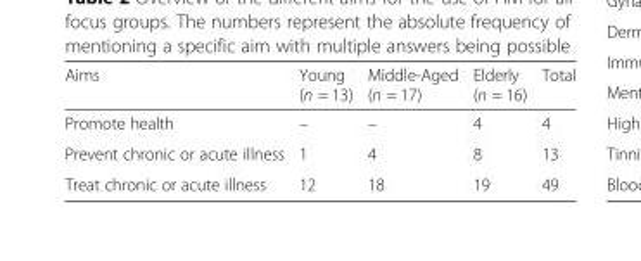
<table><thead><tr><td>Aims</td><td>Young (n = 13)</td><td>Middle-Aged (n = 17)</td><td>Elderly (n = 16)</td><td>Total</td></tr></thead><tbody><tr><td>Promote health</td><td>–</td><td>–</td><td>4</td><td>4</td></tr><tr><td>Prevent chronic or acute illness</td><td>1</td><td>4</td><td>8</td><td>13</td></tr><tr><td>Treat chronic or acute illness</td><td>12</td><td>18</td><td>19</td><td>49</td></tr></tbody></table>